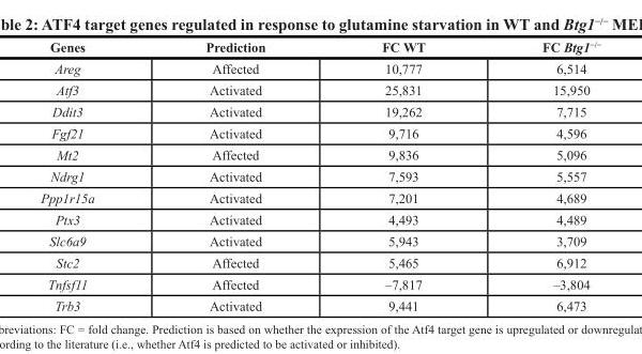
<table><thead><tr><td>Genes</td><td>Prediction</td><td>FC WT</td><td>FC Btg1<sup>−/−</sup></td></tr></thead><tbody><tr><td>Areg</td><td>Affected</td><td>10,777</td><td>6,514</td></tr><tr><td>Atf3</td><td>Activated</td><td>25,831</td><td>15,950</td></tr><tr><td>Ddit3</td><td>Activated</td><td>19,262</td><td>7,715</td></tr><tr><td>Fgf21</td><td>Activated</td><td>9,716</td><td>4,596</td></tr><tr><td>Mt2</td><td>Affected</td><td>9,836</td><td>5,096</td></tr><tr><td>Ndrg1</td><td>Activated</td><td>7,593</td><td>5,557</td></tr><tr><td>Ppp1r15a</td><td>Activated</td><td>7,201</td><td>4,689</td></tr><tr><td>Ptx3</td><td>Activated</td><td>4,493</td><td>4,489</td></tr><tr><td>Slc6a9</td><td>Activated</td><td>5,943</td><td>3,709</td></tr><tr><td>Stc2</td><td>Affected</td><td>5,465</td><td>6,912</td></tr><tr><td>Tnfsf11</td><td>Affected</td><td>–7,817</td><td>–3,804</td></tr><tr><td>Trb3</td><td>Activated</td><td>9,441</td><td>6,473</td></tr></tbody></table>